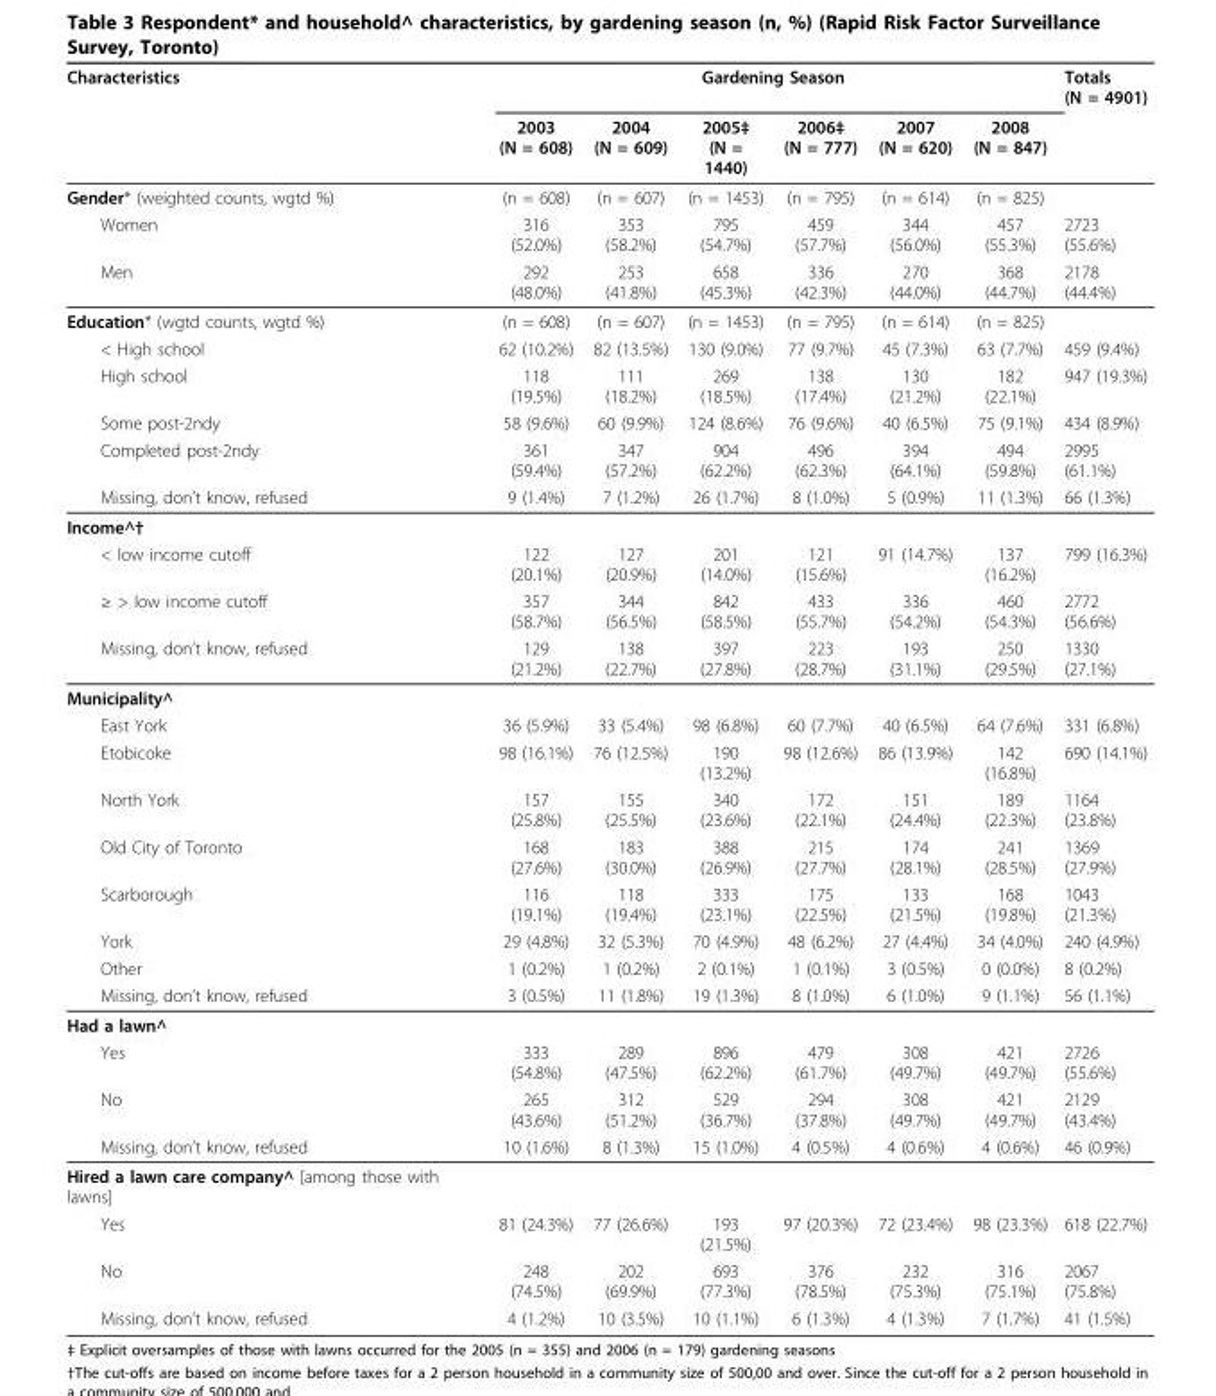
<table><thead><tr><td rowspan="2">Characteristics</td><td colspan="6">Gardening Season</td><td rowspan="2">Totals (N = 4901)</td></tr><tr><td>2003 (N = 608)</td><td>2004 (N = 609)</td><td>2005‡ (N = 1440)</td><td>2006‡ (N = 777)</td><td>2007 (N = 620)</td><td>2008 (N = 847)</td></tr></thead><tbody><tr><td>Gender* (weighted counts, wgtd %)</td><td>(n = 608)</td><td>(n = 607)</td><td>(n = 1453)</td><td>(n = 795)</td><td>(n = 614)</td><td>(n = 825)</td><td></td></tr><tr><td>Women</td><td>316 (52.0%)</td><td>353 (58.2%)</td><td>795 (54.7%)</td><td>459 (57.7%)</td><td>344 (56.0%)</td><td>457 (55.3%)</td><td>2723 (55.6%)</td></tr><tr><td>Men</td><td>292 (48.0%)</td><td>253 (41.8%)</td><td>658 (45.3%)</td><td>336 (42.3%)</td><td>270 (44.0%)</td><td>368 (44.7%)</td><td>2178 (44.4%)</td></tr><tr><td>Education* (wgtd counts, wgtd %)</td><td>(n = 608)</td><td>(n = 607)</td><td>(n = 1453)</td><td>(n = 795)</td><td>(n = 614)</td><td>(n = 825)</td><td></td></tr><tr><td>&lt; High school</td><td>62 (10.2%)</td><td>82 (13.5%)</td><td>130 (9.0%)</td><td>77 (9.7%)</td><td>45 (7.3%)</td><td>63 (7.7%)</td><td>459 (9.4%)</td></tr><tr><td>High school</td><td>118 (19.5%)</td><td>111 (18.2%)</td><td>269 (18.5%)</td><td>138 (17.4%)</td><td>130 (21.2%)</td><td>182 (22.1%)</td><td>947 (19.3%)</td></tr><tr><td>Some post-2ndy</td><td>58 (9.6%)</td><td>60 (9.9%)</td><td>124 (8.6%)</td><td>76 (9.6%)</td><td>40 (6.5%)</td><td>75 (9.1%)</td><td>434 (8.9%)</td></tr><tr><td>Completed post-2ndy</td><td>361 (59.4%)</td><td>347 (57.2%)</td><td>904 (62.2%)</td><td>496 (62.3%)</td><td>394 (64.1%)</td><td>494 (59.8%)</td><td>2995 (61.1%)</td></tr><tr><td>Missing, don’t know, refused</td><td>9 (1.4%)</td><td>7 (1.2%)</td><td>26 (1.7%)</td><td>8 (1.0%)</td><td>5 (0.9%)</td><td>11 (1.3%)</td><td>66 (1.3%)</td></tr><tr><td colspan="8">Income^†</td></tr><tr><td>&lt; low income cutoff</td><td>122 (20.1%)</td><td>127 (20.9%)</td><td>201 (14.0%)</td><td>121 (15.6%)</td><td>91 (14.7%)</td><td>137 (16.2%)</td><td>799 (16.3%)</td></tr><tr><td>≥ &gt; low income cutoff</td><td>357 (58.7%)</td><td>344 (56.5%)</td><td>842 (58.5%)</td><td>433 (55.7%)</td><td>336 (54.2%)</td><td>460 (54.3%)</td><td>2772 (56.6%)</td></tr><tr><td>Missing, don’t know, refused</td><td>129 (21.2%)</td><td>138 (22.7%)</td><td>397 (27.8%)</td><td>223 (28.7%)</td><td>193 (31.1%)</td><td>250 (29.5%)</td><td>1330 (27.1%)</td></tr><tr><td colspan="8">Municipality^</td></tr><tr><td>East York</td><td>36 (5.9%)</td><td>33 (5.4%)</td><td>98 (6.8%)</td><td>60 (7.7%)</td><td>40 (6.5%)</td><td>64 (7.6%)</td><td>331 (6.8%)</td></tr><tr><td>Etobicoke</td><td>98 (16.1%)</td><td>76 (12.5%)</td><td>190 (13.2%)</td><td>98 (12.6%)</td><td>86 (13.9%)</td><td>142 (16.8%)</td><td>690 (14.1%)</td></tr><tr><td>North York</td><td>157 (25.8%)</td><td>155 (25.5%)</td><td>340 (23.6%)</td><td>172 (22.1%)</td><td>151 (24.4%)</td><td>189 (22.3%)</td><td>1164 (23.8%)</td></tr><tr><td>Old City of Toronto</td><td>168 (27.6%)</td><td>183 (30.0%)</td><td>388 (26.9%)</td><td>215 (27.7%)</td><td>174 (28.1%)</td><td>241 (28.5%)</td><td>1369 (27.9%)</td></tr><tr><td>Scarborough</td><td>116 (19.1%)</td><td>118 (19.4%)</td><td>333 (23.1%)</td><td>175 (22.5%)</td><td>133 (21.5%)</td><td>168 (19.8%)</td><td>1043 (21.3%)</td></tr><tr><td>York</td><td>29 (4.8%)</td><td>32 (5.3%)</td><td>70 (4.9%)</td><td>48 (6.2%)</td><td>27 (4.4%)</td><td>34 (4.0%)</td><td>240 (4.9%)</td></tr><tr><td>Other</td><td>1 (0.2%)</td><td>1 (0.2%)</td><td>2 (0.1%)</td><td>1 (0.1%)</td><td>3 (0.5%)</td><td>0 (0.0%)</td><td>8 (0.2%)</td></tr><tr><td>Missing, don’t know, refused</td><td>3 (0.5%)</td><td>11 (1.8%)</td><td>19 (1.3%)</td><td>8 (1.0%)</td><td>6 (1.0%)</td><td>9 (1.1%)</td><td>56 (1.1%)</td></tr><tr><td colspan="8">Had a lawn^</td></tr><tr><td>Yes</td><td>333 (54.8%)</td><td>289 (47.5%)</td><td>896 (62.2%)</td><td>479 (61.7%)</td><td>308 (49.7%)</td><td>421 (49.7%)</td><td>2726 (55.6%)</td></tr><tr><td>No</td><td>265 (43.6%)</td><td>312 (51.2%)</td><td>529 (36.7%)</td><td>294 (37.8%)</td><td>308 (49.7%)</td><td>421 (49.7%)</td><td>2129 (43.4%)</td></tr><tr><td>Missing, don’t know, refused</td><td>10 (1.6%)</td><td>8 (1.3%)</td><td>15 (1.0%)</td><td>4 (0.5%)</td><td>4 (0.6%)</td><td>4 (0.6%)</td><td>46 (0.9%)</td></tr><tr><td colspan="8">Hired a lawn care company^ [among those with lawns]</td></tr><tr><td>Yes</td><td>81 (24.3%)</td><td>77 (26.6%)</td><td>193 (21.5%)</td><td>97 (20.3%)</td><td>72 (23.4%)</td><td>98 (23.3%)</td><td>618 (22.7%)</td></tr><tr><td>No</td><td>248 (74.5%)</td><td>202 (69.9%)</td><td>693 (77.3%)</td><td>376 (78.5%)</td><td>232 (75.3%)</td><td>316 (75.1%)</td><td>2067 (75.8%)</td></tr><tr><td>Missing, don’t know, refused</td><td>4 (1.2%)</td><td>10 (3.5%)</td><td>10 (1.1%)</td><td>6 (1.3%)</td><td>4 (1.3%)</td><td>7 (1.7%)</td><td>41 (1.5%)</td></tr></tbody></table>